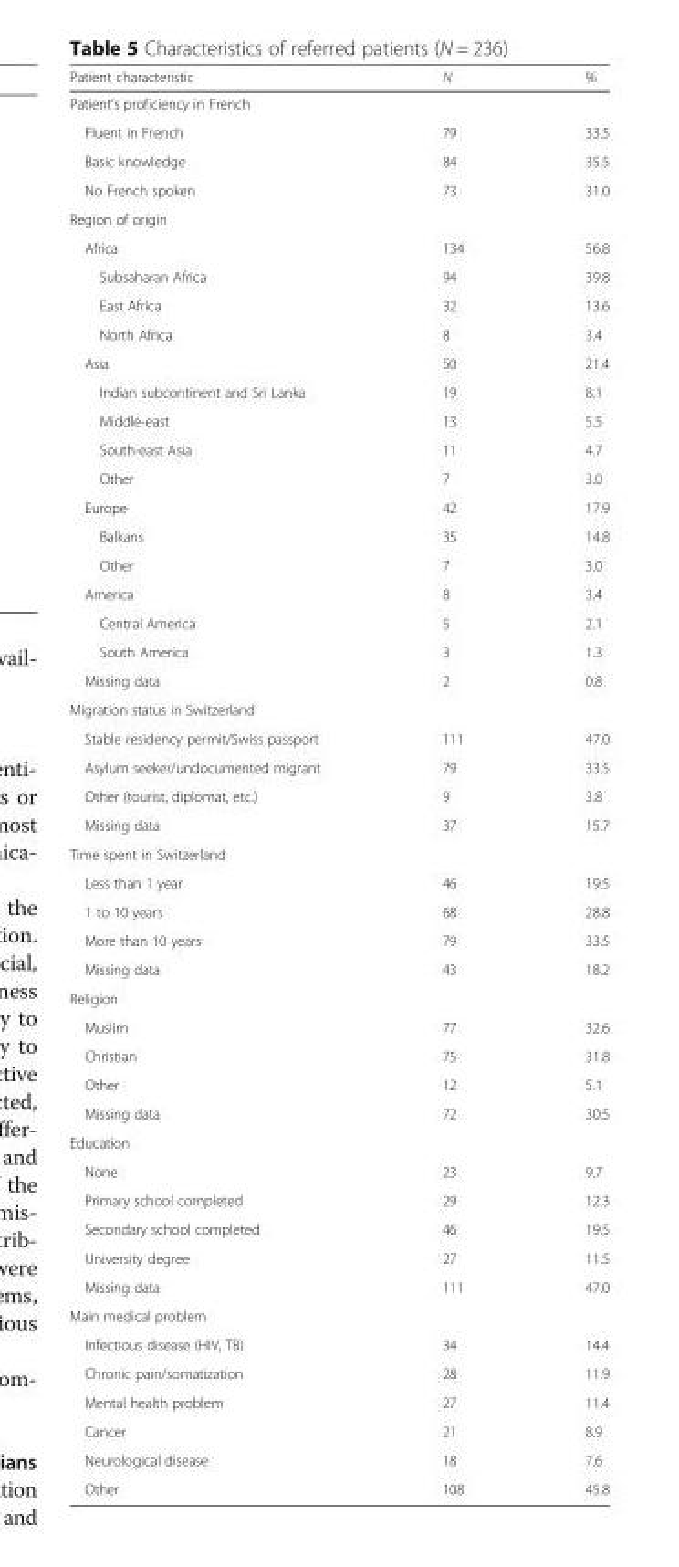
<table><thead><tr><td>Patient characteristic</td><td>N</td><td>%</td></tr></thead><tbody><tr><td colspan="3">Patient’s proficiency in French</td></tr><tr><td>Fluent in French</td><td>79</td><td>33.5</td></tr><tr><td>Basic knowledge</td><td>84</td><td>35.5</td></tr><tr><td>No French spoken</td><td>73</td><td>31.0</td></tr><tr><td colspan="3">Region of origin</td></tr><tr><td>Africa</td><td>134</td><td>56.8</td></tr><tr><td>Subsaharan Africa</td><td>94</td><td>39.8</td></tr><tr><td>East Africa</td><td>32</td><td>13.6</td></tr><tr><td>North Africa</td><td>8</td><td>3.4</td></tr><tr><td>Asia</td><td>50</td><td>21.4</td></tr><tr><td>Indian subcontinent and Sri Lanka</td><td>19</td><td>8.1</td></tr><tr><td>Middle-east</td><td>13</td><td>5.5</td></tr><tr><td>South-east Asia</td><td>11</td><td>4.7</td></tr><tr><td>Other</td><td>7</td><td>3.0</td></tr><tr><td>Europe</td><td>42</td><td>17.9</td></tr><tr><td>Balkans</td><td>35</td><td>14.8</td></tr><tr><td>Other</td><td>7</td><td>3.0</td></tr><tr><td>America</td><td>8</td><td>3.4</td></tr><tr><td>Central America</td><td>5</td><td>2.1</td></tr><tr><td>South America</td><td>3</td><td>1.3</td></tr><tr><td>Missing data</td><td>2</td><td>0.8</td></tr><tr><td colspan="3">Migration status in Switzerland</td></tr><tr><td>Stable residency permit/Swiss passport</td><td>111</td><td>47.0</td></tr><tr><td>Asylum seeker/undocumented migrant</td><td>79</td><td>33.5</td></tr><tr><td>Other (tourist, diplomat, etc.)</td><td>9</td><td>3.8</td></tr><tr><td>Missing data</td><td>37</td><td>15.7</td></tr><tr><td colspan="3">Time spent in Switzerland</td></tr><tr><td>Less than 1 year</td><td>46</td><td>19.5</td></tr><tr><td>1 to 10 years</td><td>68</td><td>28.8</td></tr><tr><td>More than 10 years</td><td>79</td><td>33.5</td></tr><tr><td>Missing data</td><td>43</td><td>18.2</td></tr><tr><td colspan="3">Religion</td></tr><tr><td>Muslim</td><td>77</td><td>32.6</td></tr><tr><td>Christian</td><td>75</td><td>31.8</td></tr><tr><td>Other</td><td>12</td><td>5.1</td></tr><tr><td>Missing data</td><td>72</td><td>30.5</td></tr><tr><td colspan="3">Education</td></tr><tr><td>None</td><td>23</td><td>9.7</td></tr><tr><td>Primary school completed</td><td>29</td><td>12.3</td></tr><tr><td>Secondary school completed</td><td>46</td><td>19.5</td></tr><tr><td>University degree</td><td>27</td><td>11.5</td></tr><tr><td>Missing data</td><td>111</td><td>47.0</td></tr><tr><td colspan="3">Main medical problem</td></tr><tr><td>Infectious disease (HIV, TB)</td><td>34</td><td>14.4</td></tr><tr><td>Chronic pain/somatization</td><td>28</td><td>11.9</td></tr><tr><td>Mental health problem</td><td>27</td><td>11.4</td></tr><tr><td>Cancer</td><td>21</td><td>8.9</td></tr><tr><td>Neurological disease</td><td>18</td><td>7.6</td></tr><tr><td>Other</td><td>108</td><td>45.8</td></tr></tbody></table>